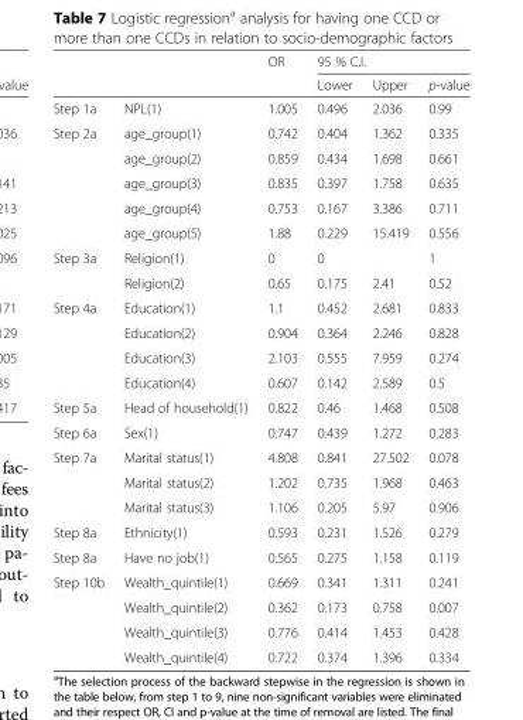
<table><thead><tr><td rowspan="2"></td><td rowspan="2"></td><td rowspan="2">OR</td><td colspan="3">95 % C.I.</td></tr><tr><td>Lower</td><td>Upper</td><td>p-value</td></tr></thead><tbody><tr><td>Step 1a</td><td>NPL(1)</td><td>1.005</td><td>0.496</td><td>2.036</td><td>0.99</td></tr><tr><td rowspan="5">Step 2a</td><td>age_group(1)</td><td>0.742</td><td>0.404</td><td>1.362</td><td>0.335</td></tr><tr><td>age_group(2)</td><td>0.859</td><td>0.434</td><td>1.698</td><td>0.661</td></tr><tr><td>age_group(3)</td><td>0.835</td><td>0.397</td><td>1.758</td><td>0.635</td></tr><tr><td>age_group(4)</td><td>0.753</td><td>0.167</td><td>3.386</td><td>0.711</td></tr><tr><td>age_group(5)</td><td>1.88</td><td>0.229</td><td>15.419</td><td>0.556</td></tr><tr><td rowspan="2">Step 3a</td><td>Religion(1)</td><td>0</td><td>0</td><td></td><td>1</td></tr><tr><td>Religion(2)</td><td>0.65</td><td>0.175</td><td>2.41</td><td>0.52</td></tr><tr><td rowspan="4">Step 4a</td><td>Education(1)</td><td>1.1</td><td>0.452</td><td>2.681</td><td>0.833</td></tr><tr><td>Education(2)</td><td>0.904</td><td>0.364</td><td>2.246</td><td>0.828</td></tr><tr><td>Education(3)</td><td>2.103</td><td>0.555</td><td>7.959</td><td>0.274</td></tr><tr><td>Education(4)</td><td>0.607</td><td>0.142</td><td>2.589</td><td>0.5</td></tr><tr><td>Step 5a</td><td>Head of household(1)</td><td>0.822</td><td>0.46</td><td>1.468</td><td>0.508</td></tr><tr><td>Step 6a</td><td>Sex(1)</td><td>0.747</td><td>0.439</td><td>1.272</td><td>0.283</td></tr><tr><td rowspan="3">Step 7a</td><td>Marital status(1)</td><td>4.808</td><td>0.841</td><td>27.502</td><td>0.078</td></tr><tr><td>Marital status(2)</td><td>1.202</td><td>0.735</td><td>1.968</td><td>0.463</td></tr><tr><td>Marital status(3)</td><td>1.106</td><td>0.205</td><td>5.97</td><td>0.906</td></tr><tr><td>Step 8a</td><td>Ethnicity(1)</td><td>0.593</td><td>0.231</td><td>1.526</td><td>0.279</td></tr><tr><td>Step 8a</td><td>Have no job(1)</td><td>0.565</td><td>0.275</td><td>1.158</td><td>0.119</td></tr><tr><td rowspan="4">Step 10b</td><td>Wealth_quintile(1)</td><td>0.669</td><td>0.341</td><td>1.311</td><td>0.241</td></tr><tr><td>Wealth_quintile(2)</td><td>0.362</td><td>0.173</td><td>0.758</td><td>0.007</td></tr><tr><td>Wealth_quintile(3)</td><td>0.776</td><td>0.414</td><td>1.453</td><td>0.428</td></tr><tr><td>Wealth_quintile(4)</td><td>0.722</td><td>0.374</td><td>1.396</td><td>0.334</td></tr></tbody></table>